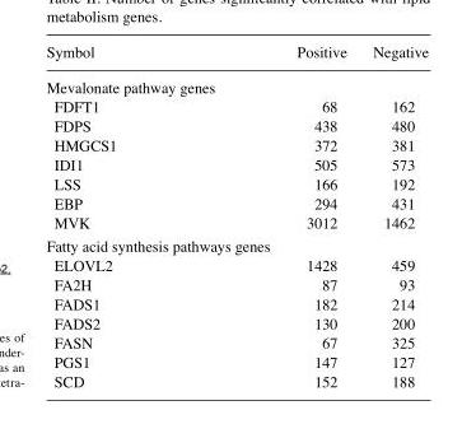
<table><thead><tr><td>Symbol</td><td>Positive</td><td>Negative</td></tr></thead><tbody><tr><td colspan="3">Mevalonate pathway genes</td></tr><tr><td>FDFT1</td><td>68</td><td>162</td></tr><tr><td>FDPS</td><td>438</td><td>480</td></tr><tr><td>HMGCS1</td><td>372</td><td>381</td></tr><tr><td>IDI1</td><td>505</td><td>573</td></tr><tr><td>LSS</td><td>166</td><td>192</td></tr><tr><td>EBP</td><td>294</td><td>431</td></tr><tr><td>MVK</td><td>3012</td><td>1462</td></tr><tr><td colspan="3">Fatty acid synthesis pathways genes</td></tr><tr><td>ELOVL2</td><td>1428</td><td>459</td></tr><tr><td>FA2H</td><td>87</td><td>93</td></tr><tr><td>FADS1</td><td>182</td><td>214</td></tr><tr><td>FADS2</td><td>130</td><td>200</td></tr><tr><td>FASN</td><td>67</td><td>325</td></tr><tr><td>PGS1</td><td>147</td><td>127</td></tr><tr><td>SCD</td><td>152</td><td>188</td></tr></tbody></table>